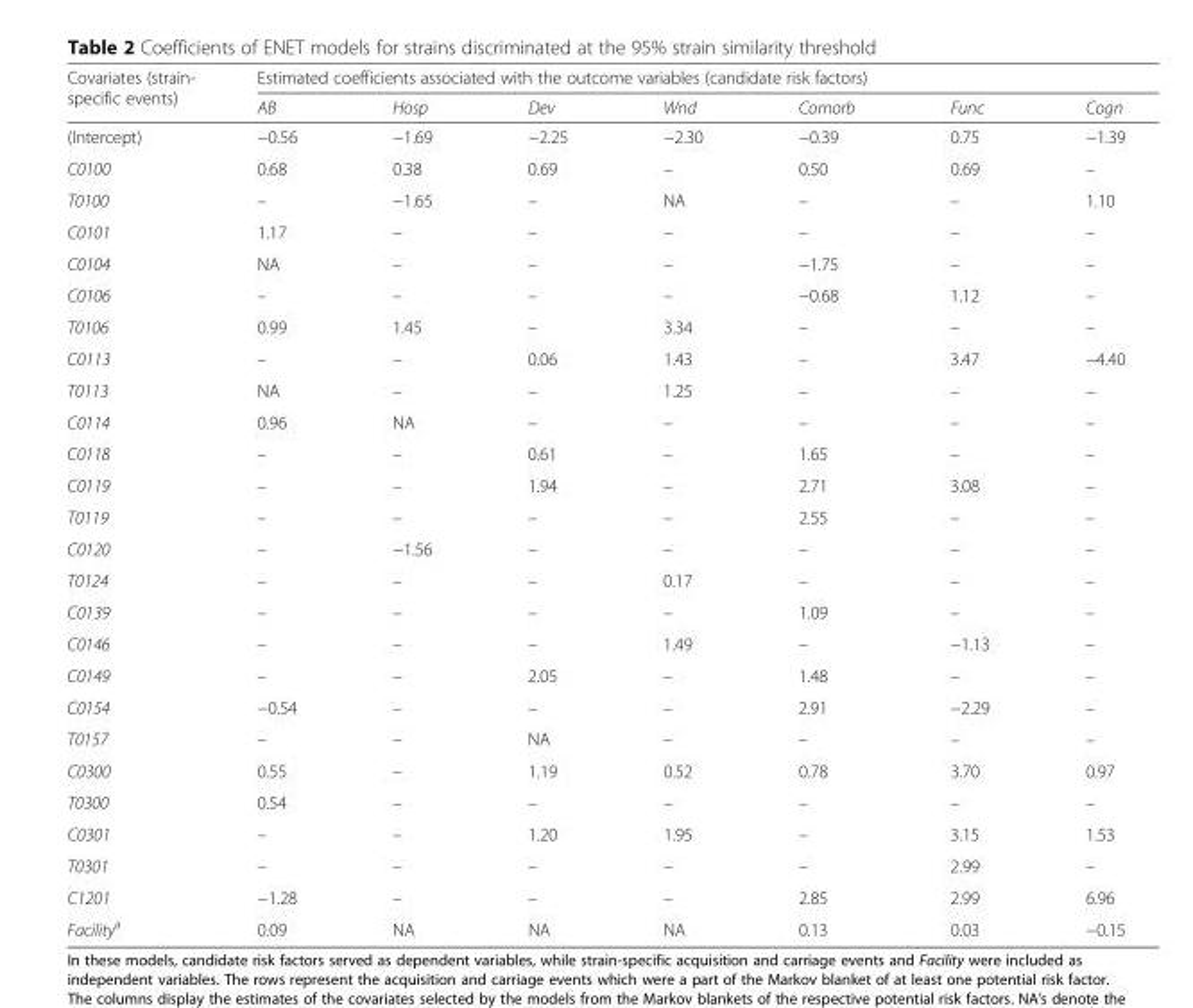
<table><thead><tr><td rowspan="2">Covariates (strain- specific events)</td><td colspan="7">Estimated coefficients associated with the outcome variables (candidate risk factors)</td></tr><tr><td>AB</td><td>Hosp</td><td>Dev</td><td>Wnd</td><td>Comorb</td><td>Func</td><td>Cogn</td></tr></thead><tbody><tr><td>(Intercept)</td><td>−0.56</td><td>−1.69</td><td>−2.25</td><td>−2.30</td><td>−0.39</td><td>0.75</td><td>−1.39</td></tr><tr><td>C0100</td><td>0.68</td><td>0.38</td><td>0.69</td><td>–</td><td>0.50</td><td>0.69</td><td>–</td></tr><tr><td>T0100</td><td>–</td><td>−1.65</td><td>–</td><td>NA</td><td>–</td><td>–</td><td>1.10</td></tr><tr><td>C0101</td><td>1.17</td><td>–</td><td>–</td><td>–</td><td>–</td><td>–</td><td>–</td></tr><tr><td>C0104</td><td>NA</td><td>–</td><td>–</td><td>–</td><td>−1.75</td><td>–</td><td>–</td></tr><tr><td>C0106</td><td>–</td><td>–</td><td>–</td><td>–</td><td>−0.68</td><td>1.12</td><td>–</td></tr><tr><td>T0106</td><td>0.99</td><td>1.45</td><td>–</td><td>3.34</td><td>–</td><td>–</td><td>–</td></tr><tr><td>C0113</td><td>–</td><td>–</td><td>0.06</td><td>1.43</td><td>–</td><td>3.47</td><td>−4.40</td></tr><tr><td>T0113</td><td>NA</td><td>–</td><td>–</td><td>1.25</td><td>–</td><td>–</td><td>–</td></tr><tr><td>C0114</td><td>0.96</td><td>NA</td><td>–</td><td>–</td><td>–</td><td>–</td><td>–</td></tr><tr><td>C0118</td><td>–</td><td>–</td><td>0.61</td><td>–</td><td>1.65</td><td>–</td><td>–</td></tr><tr><td>C0119</td><td>–</td><td>–</td><td>1.94</td><td>–</td><td>2.71</td><td>3.08</td><td>–</td></tr><tr><td>T0119</td><td>–</td><td>–</td><td>–</td><td>–</td><td>2.55</td><td>–</td><td>–</td></tr><tr><td>C0120</td><td>–</td><td>−1.56</td><td>–</td><td>–</td><td>–</td><td>–</td><td>–</td></tr><tr><td>T0124</td><td>–</td><td>–</td><td>–</td><td>0.17</td><td>–</td><td>–</td><td>–</td></tr><tr><td>C0139</td><td>–</td><td>–</td><td>–</td><td>–</td><td>1.09</td><td>–</td><td>–</td></tr><tr><td>C0146</td><td>–</td><td>–</td><td>–</td><td>1.49</td><td>–</td><td>−1.13</td><td>–</td></tr><tr><td>C0149</td><td>–</td><td>–</td><td>2.05</td><td>–</td><td>1.48</td><td>–</td><td>–</td></tr><tr><td>C0154</td><td>−0.54</td><td>–</td><td>–</td><td>–</td><td>2.91</td><td>−2.29</td><td>–</td></tr><tr><td>T0157</td><td>–</td><td>–</td><td>NA</td><td>–</td><td>–</td><td>–</td><td>–</td></tr><tr><td>C0300</td><td>0.55</td><td>–</td><td>1.19</td><td>0.52</td><td>0.78</td><td>3.70</td><td>0.97</td></tr><tr><td>T0300</td><td>0.54</td><td>–</td><td>–</td><td>–</td><td>–</td><td>–</td><td>–</td></tr><tr><td>C0301</td><td>–</td><td>–</td><td>1.20</td><td>1.95</td><td>–</td><td>3.15</td><td>1.53</td></tr><tr><td>T0301</td><td>–</td><td>–</td><td>–</td><td>–</td><td>–</td><td>2.99</td><td>–</td></tr><tr><td>C1201</td><td>−1.28</td><td>–</td><td>–</td><td>–</td><td>2.85</td><td>2.99</td><td>6.96</td></tr><tr><td>Facility<sup>a</sup></td><td>0.09</td><td>NA</td><td>NA</td><td>NA</td><td>0.13</td><td>0.03</td><td>−0.15</td></tr></tbody></table>